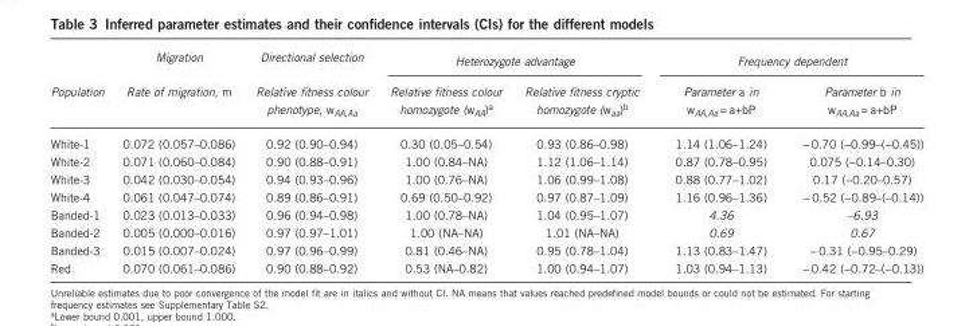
<table><thead><tr><td rowspan="2">Population</td><td rowspan="2">Migration Rate of migration, m</td><td rowspan="2">Directional selection Relative fitness colour phenotype, w<sub>AA,Aa</sub></td><td colspan="2">Heterozygote advantage</td><td colspan="2">Frequency dependent</td></tr><tr><td>Relative fitness colour homozygote (w<sub>AA</sub>)<sup>a</sup></td><td>Relative fitness cryptic homozygote (w<sub>aa</sub>)<sup>b</sup></td><td>Parameter a in w<sub>AA,Aa</sub>= a+bP</td><td>Parameter b in w<sub>AA,Aa</sub>= a+bP</td></tr></thead><tbody><tr><td>White-1</td><td>0.072 (0.057–0.086)</td><td>0.92 (0.90–0.94)</td><td>0.30 (0.05–0.54)</td><td>0.93 (0.86–0.98)</td><td>1.14 (1.06–1.24)</td><td>− 0.70 (−0.99–(−0.45))</td></tr><tr><td>White-2</td><td>0.071 (0.060–0.084)</td><td>0.90 (0.88–0.91)</td><td>1.00 (0.84–NA)</td><td>1.12 (1.06–1.14)</td><td>0.87 (0.78–0.95)</td><td>0.075 (−0.14–0.30)</td></tr><tr><td>White-3</td><td>0.042 (0.030–0.054)</td><td>0.94 (0.93–0.96)</td><td>1.00 (0.76–NA)</td><td>1.06 (0.99–1.08)</td><td>0.88 (0.77–1.02)</td><td>0.17 (−0.20–0.57)</td></tr><tr><td>White-4</td><td>0.061 (0.047–0.074)</td><td>0.89 (0.86–0.91)</td><td>0.69 (0.50–0.92)</td><td>0.97 (0.87–1.09)</td><td>1.16 (0.96–1.36)</td><td>− 0.52 (−0.89–(–0.14))</td></tr><tr><td>Banded-1</td><td>0.023 (0.013–0.033)</td><td>0.96 (0.94–0.98)</td><td>1.00 (0.78–NA)</td><td>1.04 (0.95–1.07)</td><td>4.36</td><td>–6.93</td></tr><tr><td>Banded-2</td><td>0.005 (0.000–0.016)</td><td>0.97 (0.97–1.01)</td><td>1.00 (NA–NA)</td><td>1.01 (NA–NA)</td><td>0.69</td><td>0.67</td></tr><tr><td>Banded-3</td><td>0.015 (0.007–0.024)</td><td>0.97 (0.96–0.99)</td><td>0.81 (0.46–NA)</td><td>0.95 (0.78–1.04)</td><td>1.13 (0.83–1.47)</td><td>− 0.31 (−0.95–0.29)</td></tr><tr><td>Red</td><td>0.070 (0.061–0.086)</td><td>0.90 (0.88–0.92)</td><td>0.53 (NA–0.82)</td><td>1.00 (0.94–1.07)</td><td>1.03 (0.94–1.13)</td><td>− 0.42 (−0.72–(−0.13))</td></tr></tbody></table>